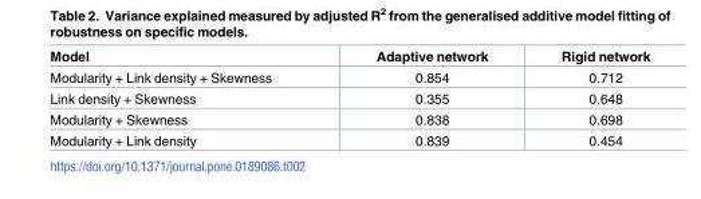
<table><thead><tr><td>Model</td><td>Adaptive network</td><td>Rigid network</td></tr></thead><tbody><tr><td>Modularity + Link density + Skewness</td><td>0.854</td><td>0.712</td></tr><tr><td>Link density + Skewness</td><td>0.355</td><td>0.648</td></tr><tr><td>Modularity + Skewness</td><td>0.838</td><td>0.698</td></tr><tr><td>Modularity + Link density</td><td>0.839</td><td>0.454</td></tr></tbody></table>